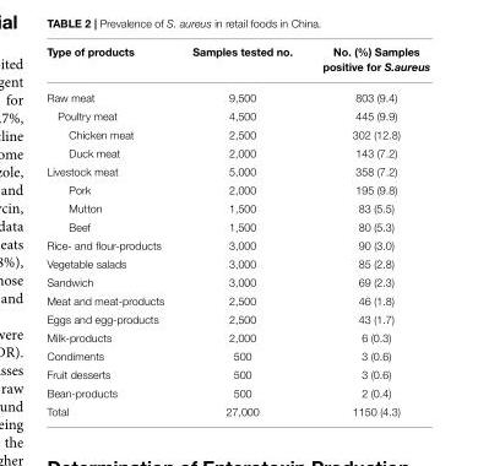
<table><thead><tr><td>Type of products</td><td>Samples tested no.</td><td>No. (%) Samples positive for S.aureus</td></tr></thead><tbody><tr><td>Raw meat</td><td>9,500</td><td>803 (9.4)</td></tr><tr><td>Poultry meat</td><td>4,500</td><td>445 (9.9)</td></tr><tr><td>Chicken meat</td><td>2,500</td><td>302 (12.8)</td></tr><tr><td>Duck meat</td><td>2,000</td><td>143 (7.2)</td></tr><tr><td>Livestock meat</td><td>5,000</td><td>358 (7.2)</td></tr><tr><td>Pork</td><td>2,000</td><td>195 (9.8)</td></tr><tr><td>Mutton</td><td>1,500</td><td>83 (5.5)</td></tr><tr><td>Beef</td><td>1,500</td><td>80 (5.3)</td></tr><tr><td>Rice- and flour-products</td><td>3,000</td><td>90 (3.0)</td></tr><tr><td>Vegetable salads</td><td>3,000</td><td>85 (2.8)</td></tr><tr><td>Sandwich</td><td>3,000</td><td>69 (2.3)</td></tr><tr><td>Meat and meat-products</td><td>2,500</td><td>46 (1.8)</td></tr><tr><td>Eggs and egg-products</td><td>2,500</td><td>43 (1.7)</td></tr><tr><td>Milk-products</td><td>2,000</td><td>6 (0.3)</td></tr><tr><td>Condiments</td><td>500</td><td>3 (0.6)</td></tr><tr><td>Fruit desserts</td><td>500</td><td>3 (0.6)</td></tr><tr><td>Bean-products</td><td>500</td><td>2 (0.4)</td></tr><tr><td>Total</td><td>27,000</td><td>1150 (4.3)</td></tr></tbody></table>